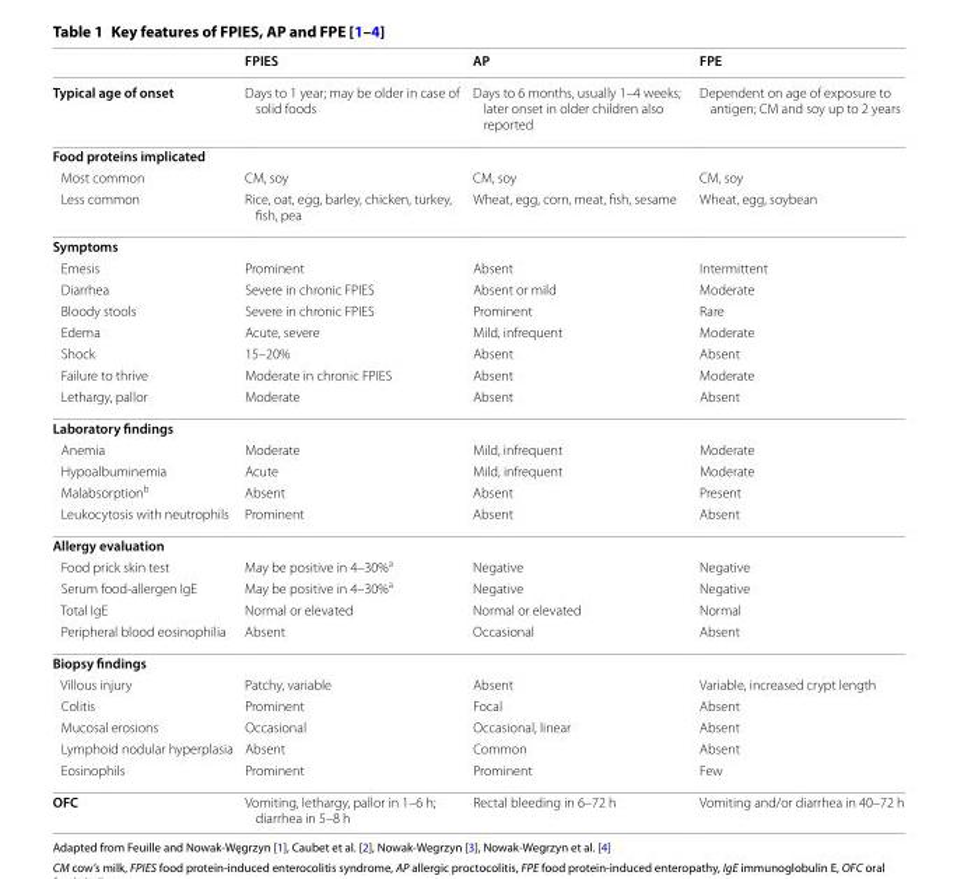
<table><thead><tr><td></td><td>FPIES</td><td>AP</td><td>FPE</td></tr></thead><tbody><tr><td>Typical age of onset</td><td>Days to 1 year; may be older in case of solid foods</td><td>Days to 6 months, usually 1–4 weeks; later onset in older children also reported</td><td>Dependent on age of exposure to antigen; CM and soy up to 2 years</td></tr><tr><td colspan="4">Food proteins implicated</td></tr><tr><td>Most common</td><td>CM, soy</td><td>CM, soy</td><td>CM, soy</td></tr><tr><td>Less common</td><td>Rice, oat, egg, barley, chicken, turkey, fish, pea</td><td>Wheat, egg, corn, meat, fish, sesame</td><td>Wheat, egg, soybean</td></tr><tr><td colspan="4">Symptoms</td></tr><tr><td>Emesis</td><td>Prominent</td><td>Absent</td><td>Intermittent</td></tr><tr><td>Diarrhea</td><td>Severe in chronic FPIES</td><td>Absent or mild</td><td>Moderate</td></tr><tr><td>Bloody stools</td><td>Severe in chronic FPIES</td><td>Prominent</td><td>Rare</td></tr><tr><td>Edema</td><td>Acute, severe</td><td>Mild, infrequent</td><td>Moderate</td></tr><tr><td>Shock</td><td>15–20%</td><td>Absent</td><td>Absent</td></tr><tr><td>Failure to thrive</td><td>Moderate in chronic FPIES</td><td>Absent</td><td>Moderate</td></tr><tr><td>Lethargy, pallor</td><td>Moderate</td><td>Absent</td><td>Absent</td></tr><tr><td colspan="4">Laboratory findings</td></tr><tr><td>Anemia</td><td>Moderate</td><td>Mild, infrequent</td><td>Moderate</td></tr><tr><td>Hypoalbuminemia</td><td>Acute</td><td>Mild, infrequent</td><td>Moderate</td></tr><tr><td>Malabsorption<sup>b</sup></td><td>Absent</td><td>Absent</td><td>Present</td></tr><tr><td>Leukocytosis with neutrophils</td><td>Prominent</td><td>Absent</td><td>Absent</td></tr><tr><td colspan="4">Allergy evaluation</td></tr><tr><td>Food prick skin test</td><td>May be positive in 4–30%<sup>a</sup></td><td>Negative</td><td>Negative</td></tr><tr><td>Serum food-allergen IgE</td><td>May be positive in 4–30%<sup>a</sup></td><td>Negative</td><td>Negative</td></tr><tr><td>Total IgE</td><td>Normal or elevated</td><td>Normal or elevated</td><td>Normal</td></tr><tr><td>Peripheral blood eosinophilia</td><td>Absent</td><td>Occasional</td><td>Absent</td></tr><tr><td colspan="4">Biopsy findings</td></tr><tr><td>Villous injury</td><td>Patchy, variable</td><td>Absent</td><td>Variable, increased crypt length</td></tr><tr><td>Colitis</td><td>Prominent</td><td>Focal</td><td>Absent</td></tr><tr><td>Mucosal erosions</td><td>Occasional</td><td>Occasional, linear</td><td>Absent</td></tr><tr><td>Lymphoid nodular hyperplasia</td><td>Absent</td><td>Common</td><td>Absent</td></tr><tr><td>Eosinophils</td><td>Prominent</td><td>Prominent</td><td>Few</td></tr><tr><td>OFC</td><td>Vomiting, lethargy, pallor in 1–6 h; diarrhea in 5–8 h</td><td>Rectal bleeding in 6–72 h</td><td>Vomiting and/or diarrhea in 40–72 h</td></tr></tbody></table>